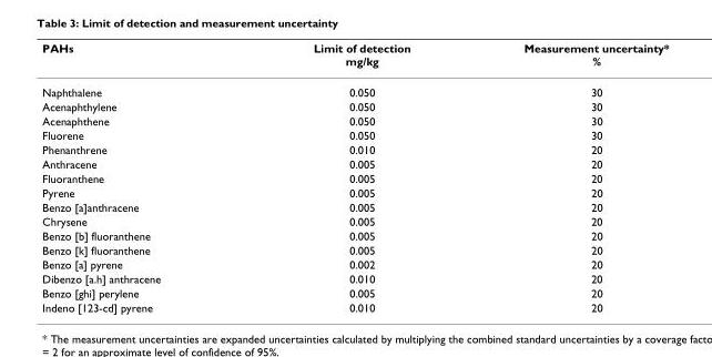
<table><thead><tr><td>PAHs</td><td>Limit of detection mg/kg</td><td>Measurement uncertainty* %</td></tr></thead><tbody><tr><td>Naphthalene</td><td>0.050</td><td>30</td></tr><tr><td>Acenaphthylene</td><td>0.050</td><td>30</td></tr><tr><td>Acenaphthene</td><td>0.050</td><td>30</td></tr><tr><td>Fluorene</td><td>0.050</td><td>30</td></tr><tr><td>Phenanthrene</td><td>0.010</td><td>20</td></tr><tr><td>Anthracene</td><td>0.005</td><td>20</td></tr><tr><td>Fluoranthene</td><td>0.005</td><td>20</td></tr><tr><td>Pyrene</td><td>0.005</td><td>20</td></tr><tr><td>Benzo [a]anthracene</td><td>0.005</td><td>20</td></tr><tr><td>Chrysene</td><td>0.005</td><td>20</td></tr><tr><td>Benzo [b] fluoranthene</td><td>0.005</td><td>20</td></tr><tr><td>Benzo [k] fluoranthene</td><td>0.005</td><td>20</td></tr><tr><td>Benzo [a] pyrene</td><td>0.002</td><td>20</td></tr><tr><td>Dibenzo [a.h] anthracene</td><td>0.010</td><td>20</td></tr><tr><td>Benzo [ghi] perylene</td><td>0.005</td><td>20</td></tr><tr><td>Indeno [123-cd] pyrene</td><td>0.010</td><td>20</td></tr></tbody></table>